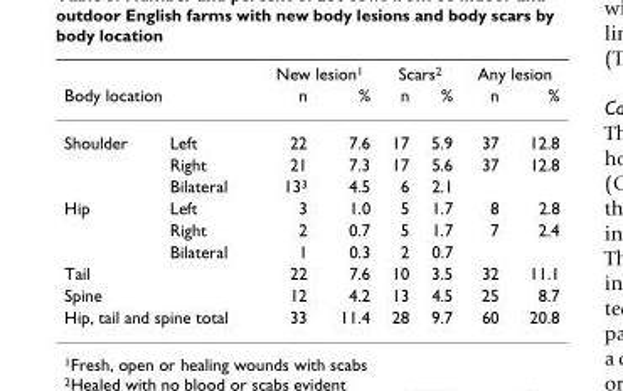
<table><thead><tr><td></td><td></td><td colspan="2">New lesion<sup>1</sup></td><td colspan="2">Scars<sup>2</sup></td><td colspan="2">Any lesion</td></tr><tr><td colspan="2">Body location</td><td>n</td><td>%</td><td>n</td><td>%</td><td>n</td><td>%</td></tr></thead><tbody><tr><td rowspan="3">Shoulder</td><td>Left</td><td>22</td><td>7.6</td><td>17</td><td>5.9</td><td>37</td><td>12.8</td></tr><tr><td>Right</td><td>21</td><td>7.3</td><td>17</td><td>5.6</td><td>37</td><td>12.8</td></tr><tr><td>Bilateral</td><td>13<sup>3</sup></td><td>4.5</td><td>6</td><td>2.1</td><td></td><td></td></tr><tr><td rowspan="3">Hip</td><td>Left</td><td>3</td><td>1.0</td><td>5</td><td>1.7</td><td>8</td><td>2.8</td></tr><tr><td>Right</td><td>2</td><td>0.7</td><td>5</td><td>1.7</td><td>7</td><td>2.4</td></tr><tr><td>Bilateral</td><td>1</td><td>0.3</td><td>2</td><td>0.7</td><td></td><td></td></tr><tr><td>Tail</td><td></td><td>22</td><td>7.6</td><td>10</td><td>3.5</td><td>32</td><td>11.1</td></tr><tr><td>Spine</td><td></td><td>12</td><td>4.2</td><td>13</td><td>4.5</td><td>25</td><td>8.7</td></tr><tr><td colspan="2">Hip, tail and spine total</td><td>33</td><td>11.4</td><td>28</td><td>9.7</td><td>60</td><td>20.8</td></tr></tbody></table>